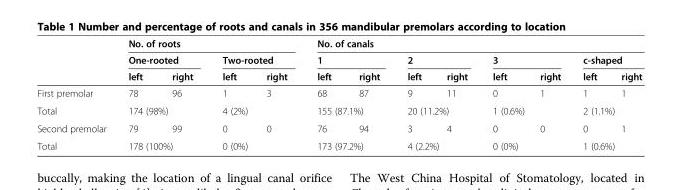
<table><thead><tr><td rowspan="3"></td><td colspan="4">No. of roots</td><td colspan="8">No. of canals</td></tr><tr><td colspan="2">One-rooted</td><td colspan="2">Two-rooted</td><td colspan="2">1</td><td colspan="2">2</td><td colspan="2">3</td><td colspan="2">c-shaped</td></tr><tr><td>left</td><td>right</td><td>left</td><td>right</td><td>left</td><td>right</td><td>left</td><td>right</td><td>left</td><td>right</td><td>left</td><td>right</td></tr></thead><tbody><tr><td>First premolar</td><td>78</td><td>96</td><td>1</td><td>3</td><td>68</td><td>87</td><td>9</td><td>11</td><td>0</td><td>1</td><td>1</td><td>1</td></tr><tr><td>Total</td><td colspan="2">174 (98%)</td><td colspan="2">4 (2%)</td><td colspan="2">155 (87.1%)</td><td colspan="2">20 (11.2%)</td><td colspan="2">1 (0.6%)</td><td colspan="2">2 (1.1%)</td></tr><tr><td>Second premolar</td><td>79</td><td>99</td><td>0</td><td>0</td><td>76</td><td>94</td><td>3</td><td>4</td><td>0</td><td>0</td><td>0</td><td>1</td></tr><tr><td>Total</td><td colspan="2">178 (100%)</td><td colspan="2">0 (0%)</td><td colspan="2">173 (97.2%)</td><td colspan="2">4 (2.2%)</td><td>0 (0%)</td><td></td><td colspan="2">1 (0.6%)</td></tr></tbody></table>